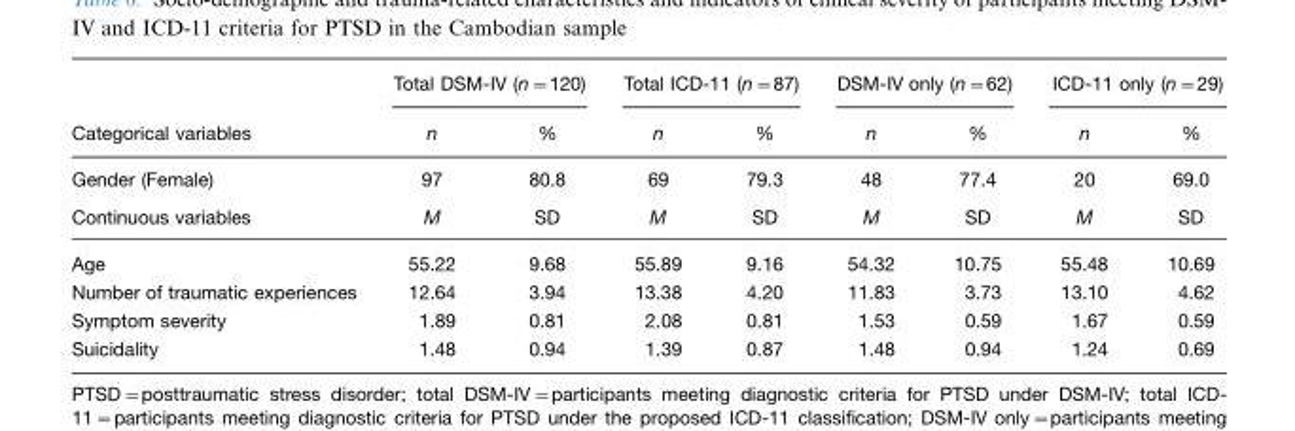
<table><thead><tr><td rowspan="2">Categorical variables</td><td colspan="2">Total DSM-IV (n=120)</td><td colspan="2">Total ICD-11 (n=87)</td><td colspan="2">DSM-IV only (n=62)</td><td colspan="2">ICD-11 only (n=29)</td></tr><tr><td>n</td><td>%</td><td>n</td><td>%</td><td>n</td><td>%</td><td>n</td><td>%</td></tr></thead><tbody><tr><td>Gender (Female)</td><td>97</td><td>80.8</td><td>69</td><td>79.3</td><td>48</td><td>77.4</td><td>20</td><td>69.0</td></tr><tr><td>Continuous variables</td><td>M</td><td>SD</td><td>M</td><td>SD</td><td>M</td><td>SD</td><td>M</td><td>SD</td></tr><tr><td>Age</td><td>55.22</td><td>9.68</td><td>55.89</td><td>9.16</td><td>54.32</td><td>10.75</td><td>55.48</td><td>10.69</td></tr><tr><td>Number of traumatic experiences</td><td>12.64</td><td>3.94</td><td>13.38</td><td>4.20</td><td>11.83</td><td>3.73</td><td>13.10</td><td>4.62</td></tr><tr><td>Symptom severity</td><td>1.89</td><td>0.81</td><td>2.08</td><td>0.81</td><td>1.53</td><td>0.59</td><td>1.67</td><td>0.59</td></tr><tr><td>Suicidality</td><td>1.48</td><td>0.94</td><td>1.39</td><td>0.87</td><td>1.48</td><td>0.94</td><td>1.24</td><td>0.69</td></tr></tbody></table>